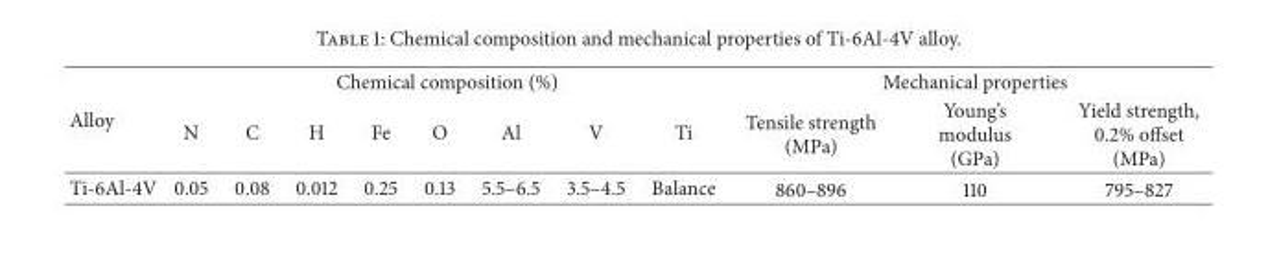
<table><thead><tr><td rowspan="2">Alloy</td><td colspan="8">Chemical composition (%)</td><td colspan="3">Mechanical properties</td></tr><tr><td>N</td><td>C</td><td>H</td><td>Fe</td><td>O</td><td>Al</td><td>V</td><td>Ti</td><td>Tensile strength (MPa)</td><td>Young’s modulus (GPa)</td><td>Yield strength, 0.2% offset (MPa)</td></tr></thead><tbody><tr><td>Ti-6Al-4V</td><td>0.05</td><td>0.08</td><td>0.012</td><td>0.25</td><td>0.13</td><td>5.5–6.5</td><td>3.5–4.5</td><td>Balance</td><td>860–896</td><td>110</td><td>795–827</td></tr></tbody></table>